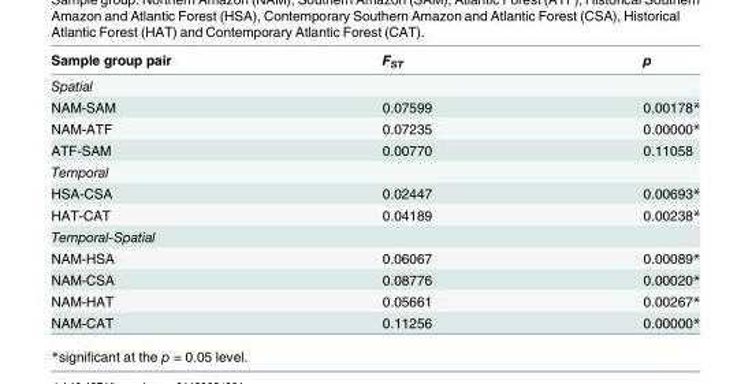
<table><thead><tr><td>Sample group pair</td><td>F<sub>ST</sub></td><td>p</td></tr></thead><tbody><tr><td colspan="3">Spatial</td></tr><tr><td>NAM-SAM</td><td>0.07599</td><td>0.00178*</td></tr><tr><td>NAM-ATF</td><td>0.07235</td><td>0.00000*</td></tr><tr><td>ATF-SAM</td><td>0.00770</td><td>0.11058</td></tr><tr><td colspan="3">Temporal</td></tr><tr><td>HSA-CSA</td><td>0.02447</td><td>0.00693*</td></tr><tr><td>HAT-CAT</td><td>0.04189</td><td>0.00238*</td></tr><tr><td colspan="3">Temporal-Spatial</td></tr><tr><td>NAM-HSA</td><td>0.06067</td><td>0.00089*</td></tr><tr><td>NAM-CSA</td><td>0.08776</td><td>0.00020*</td></tr><tr><td>NAM-HAT</td><td>0.05661</td><td>0.00267*</td></tr><tr><td>NAM-CAT</td><td>0.11256</td><td>0.00000*</td></tr></tbody></table>